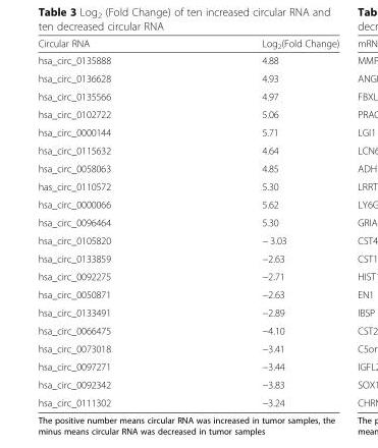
<table><thead><tr><td>Circular RNA</td><td>Log<sub>2</sub>(Fold Change)</td></tr></thead><tbody><tr><td>hsa_circ_0135888</td><td>4.88</td></tr><tr><td>hsa_circ_0136628</td><td>4.93</td></tr><tr><td>hsa_circ_0135566</td><td>4.97</td></tr><tr><td>hsa_circ_0102722</td><td>5.06</td></tr><tr><td>hsa_circ_0000144</td><td>5.71</td></tr><tr><td>hsa_circ_0115632</td><td>4.64</td></tr><tr><td>hsa_circ_0058063</td><td>4.85</td></tr><tr><td>has_circ_0110572</td><td>5.30</td></tr><tr><td>hsa_circ_0000066</td><td>5.62</td></tr><tr><td>hsa_circ_0096464</td><td>5.30</td></tr><tr><td>hsa_circ_0105820</td><td>− 3.03</td></tr><tr><td>hsa_circ_0133859</td><td>−2.63</td></tr><tr><td>hsa_circ_0092275</td><td>−2.71</td></tr><tr><td>hsa_circ_0050871</td><td>−2.63</td></tr><tr><td>hsa_circ_0133491</td><td>−2.89</td></tr><tr><td>hsa_circ_0066475</td><td>−4.10</td></tr><tr><td>hsa_circ_0073018</td><td>−3.41</td></tr><tr><td>hsa_circ_0097271</td><td>−3.44</td></tr><tr><td>hsa_circ_0092342</td><td>−3.83</td></tr><tr><td>hsa_circ_0111302</td><td>−3.24</td></tr></tbody></table>